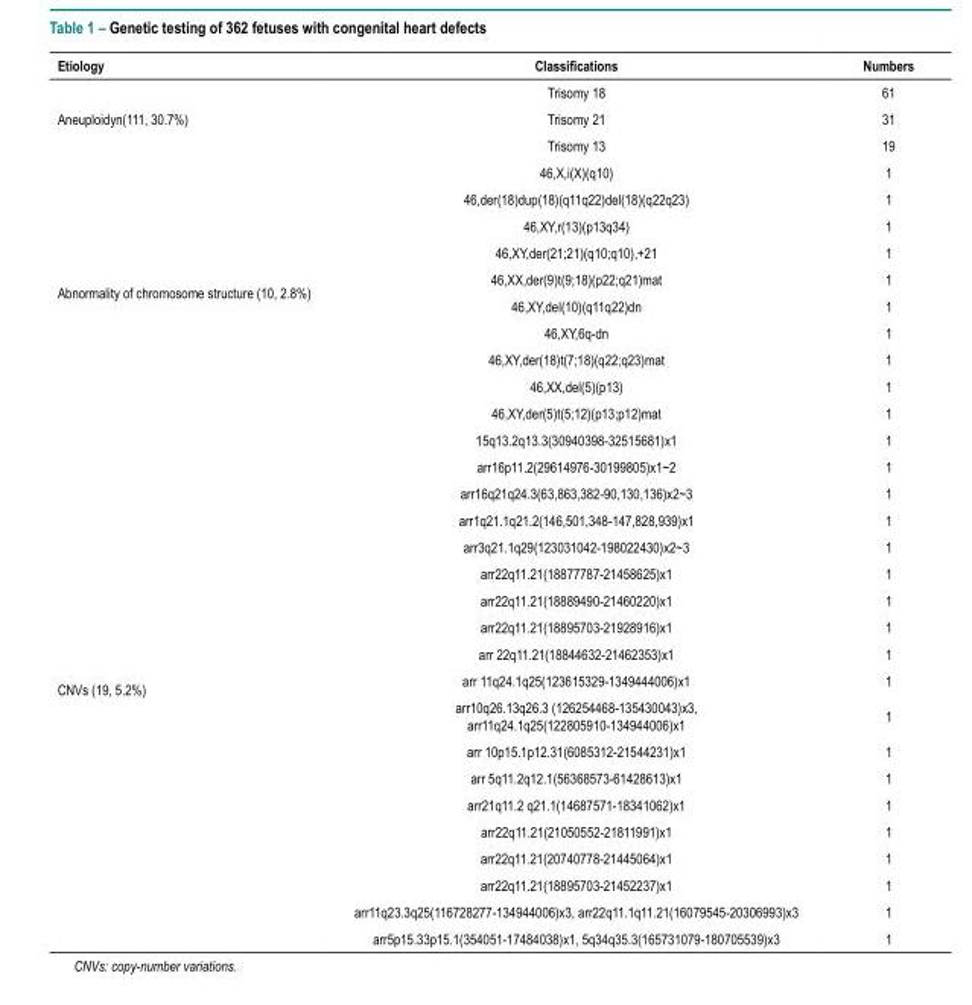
<table><thead><tr><td>Etiology</td><td>Classifications</td><td>Numbers</td></tr></thead><tbody><tr><td rowspan="3">Aneuploidyn(111, 30.7%)</td><td>Trisomy 18</td><td>61</td></tr><tr><td>Trisomy 21</td><td>31</td></tr><tr><td>Trisomy 13</td><td>19</td></tr><tr><td rowspan="10">Abnormality of chromosome structure (10, 2.8%)</td><td>46,X,i(X)(q10)</td><td>1</td></tr><tr><td>46,der(18)dup(18)(q11q22)del(18)(q22q23)</td><td>1</td></tr><tr><td>46,XY,r(13)(p13q34)</td><td>1</td></tr><tr><td>46,XY,der(21;21)(q10;q10),+21</td><td>1</td></tr><tr><td>46,XX,der(9)t(9;18)(p22;q21)mat</td><td>1</td></tr><tr><td>46,XY,del(10)(q11q22)dn</td><td>1</td></tr><tr><td>46,XY,6q-dn</td><td>1</td></tr><tr><td>46,XY,der(18)t(7;18)(q22;q23)mat</td><td>1</td></tr><tr><td>46,XX,del(5)(p13)</td><td>1</td></tr><tr><td>46,XY,der(5)t(5;12)(p13;p12)mat</td><td>1</td></tr><tr><td rowspan="19">CNVs (19, 5.2%)</td><td>15q13.2q13.3(30940398-32515681)x1</td><td>1</td></tr><tr><td>arr16p11.2(29614976-30199805)x1~2</td><td>1</td></tr><tr><td>arr16q21q24.3(63,863,382-90,130,136)x2~3</td><td>1</td></tr><tr><td>arr1q21.1q21.2(146,501,348-147,828,939)x1</td><td>1</td></tr><tr><td>arr3q21.1q29(123031042-198022430)x2~3</td><td>1</td></tr><tr><td>arr22q11.21(18877787-21458625)x1</td><td>1</td></tr><tr><td>arr22q11.21(18889490-21460220)x1</td><td>1</td></tr><tr><td>arr22q11.21(18895703-21928916)x1</td><td>1</td></tr><tr><td>arr 22q11.21(18844632-21462353)x1</td><td>1</td></tr><tr><td>arr 11q24.1q25(123615329-1349444006)x1</td><td>1</td></tr><tr><td>arr10q26.13q26.3 (126254468-135430043)x3, arr11q24.1q25(122805910-134944006)x1</td><td>1</td></tr><tr><td>arr 10p15.1p12.31(6085312-21544231)x1</td><td>1</td></tr><tr><td>arr 5q11.2q12.1(56368573-61428613)x1</td><td>1</td></tr><tr><td>arr21q11.2 q21.1(14687571-18341062)x1</td><td>1</td></tr><tr><td>arr22q11.21(21050552-21811991)x1</td><td>1</td></tr><tr><td>arr22q11.21(20740778-21445064)x1</td><td>1</td></tr><tr><td>arr22q11.21(18895703-21452237)x1</td><td>1</td></tr><tr><td>arr11q23.3q25(116728277-134944006)x3, arr22q11.1q11.21(16079545-20306993)x3</td><td>1</td></tr><tr><td>arr5p15.33p15.1(354051-17484038)x1, 5q34q35.3(165731079-180705539)x3</td><td>1</td></tr></tbody></table>